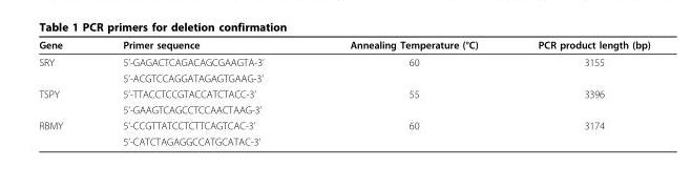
<table><thead><tr><td>Gene</td><td>Primer sequence</td><td>Annealing Temperature (°C)</td><td>PCR product length (bp)</td></tr></thead><tbody><tr><td rowspan="2">SRY</td><td>5’-GAGACTCAGACAGCGAAGTA-3’</td><td>60</td><td>3155</td></tr><tr><td>5’-ACGTCCAGGATAGAGTGAAG-3’</td><td></td><td></td></tr><tr><td rowspan="2">TSPY</td><td>5’-TTACCTCCGTACCATCTACC-3’</td><td>55</td><td>3396</td></tr><tr><td>5’-GAAGTCAGCCTCCAACTAAG-3’</td><td></td><td></td></tr><tr><td rowspan="2">RBMY</td><td>5’-CCGTTATCCTCTTCAGTCAC-3’</td><td>60</td><td>3174</td></tr><tr><td>5’-CATCTAGAGGCCATGCATAC-3’</td><td></td><td></td></tr></tbody></table>